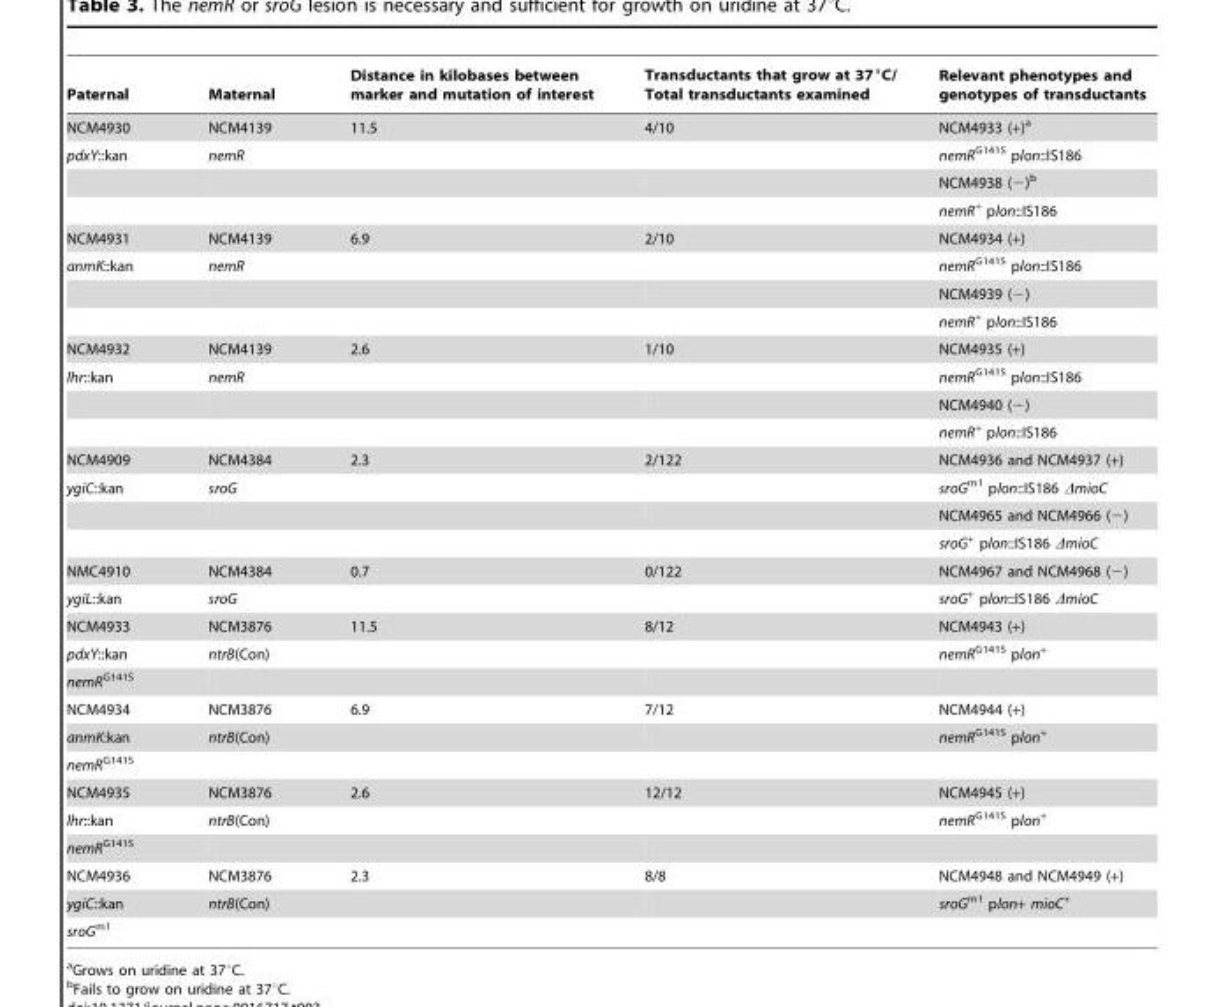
<table><thead><tr><td>Paternal</td><td>Maternal</td><td>Distance in kilobases between marker and mutation of interest</td><td>Transductants that grow at 37°C/ Total transductants examined</td><td>Relevant phenotypes and genotypes of transductants</td></tr></thead><tbody><tr><td>NCM4930</td><td>NCM4139</td><td>11.5</td><td>4/10</td><td>NCM4933 (+)<sup>a</sup></td></tr><tr><td rowspan="3">pdxY::kan</td><td>nemR</td><td></td><td></td><td>nemR<sup>G141S</sup> plon::IS186</td></tr><tr><td></td><td></td><td></td><td>NCM4938 (−)<sup>b</sup></td></tr><tr><td></td><td></td><td></td><td>nemR<sup>+</sup> plon::IS186</td></tr><tr><td>NCM4931</td><td>NCM4139</td><td>6.9</td><td>2/10</td><td>NCM4934 (+)</td></tr><tr><td rowspan="3">anmK::kan</td><td>nemR</td><td></td><td></td><td>nemR<sup>G141S</sup> plon::IS186</td></tr><tr><td></td><td></td><td></td><td>NCM4939 (−)</td></tr><tr><td></td><td></td><td></td><td>nemR<sup>+</sup> plon::IS186</td></tr><tr><td>NCM4932</td><td>NCM4139</td><td>2.6</td><td>1/10</td><td>NCM4935 (+)</td></tr><tr><td rowspan="3">lhr::kan</td><td>nemR</td><td></td><td></td><td>nemR<sup>G141S</sup> plon::IS186</td></tr><tr><td></td><td></td><td></td><td>NCM4940 (−)</td></tr><tr><td></td><td></td><td></td><td>nemR<sup>+</sup> plon::IS186</td></tr><tr><td>NCM4909</td><td>NCM4384</td><td>2.3</td><td>2/122</td><td>NCM4936 and NCM4937 (+)</td></tr><tr><td rowspan="3">ygiC::kan</td><td>sroG</td><td></td><td></td><td>sroG<sup>m1</sup> plon::IS186 ΔmioC</td></tr><tr><td></td><td></td><td></td><td>NCM4965 and NCM4966 (−)</td></tr><tr><td></td><td></td><td></td><td>sroG<sup>+</sup> plon::IS186 ΔmioC</td></tr><tr><td>NMC4910</td><td>NCM4384</td><td>0.7</td><td>0/122</td><td>NCM4967 and NCM4968 (−)</td></tr><tr><td>ygiL::kan</td><td>sroG</td><td></td><td></td><td>sroG<sup>+</sup> plon::IS186 ΔmioC</td></tr><tr><td>NCM4933</td><td>NCM3876</td><td>11.5</td><td>8/12</td><td>NCM4943 (+)</td></tr><tr><td>pdxY::kan</td><td>ntrB(Con)</td><td></td><td></td><td>nemR<sup>G141S</sup> plon<sup>+</sup></td></tr><tr><td colspan="5">nemR<sup>G141S</sup></td></tr><tr><td>NCM4934</td><td>NCM3876</td><td>6.9</td><td>7/12</td><td>NCM4944 (+)</td></tr><tr><td>anmK:kan</td><td>ntrB(Con)</td><td></td><td></td><td>nemR<sup>G141S</sup> plon<sup>+</sup></td></tr><tr><td colspan="5">nemR<sup>G141S</sup></td></tr><tr><td>NCM4935</td><td>NCM3876</td><td>2.6</td><td>12/12</td><td>NCM4945 (+)</td></tr><tr><td>lhr::kan</td><td>ntrB(Con)</td><td></td><td></td><td>nemR<sup>G141S</sup> plon<sup>+</sup></td></tr><tr><td colspan="5">nemR<sup>G141S</sup></td></tr><tr><td>NCM4936</td><td>NCM3876</td><td>2.3</td><td>8/8</td><td>NCM4948 and NCM4949 (+)</td></tr><tr><td>ygiC::kan</td><td>ntrB(Con)</td><td></td><td></td><td>sroG<sup>m1</sup> plon+ mioC<sup>+</sup></td></tr><tr><td>sroG<sup>m1</sup></td><td></td><td></td><td></td><td></td></tr></tbody></table>